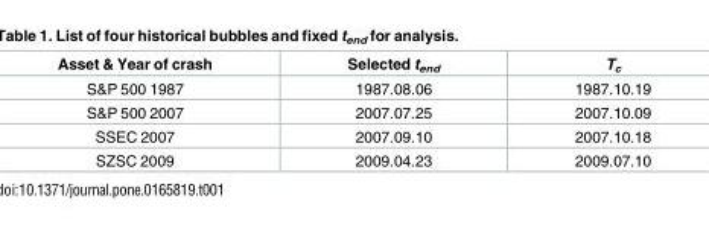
<table><thead><tr><td>Asset &amp; Year of crash</td><td>Selected t<sub>end</sub></td><td>T<sub>c</sub></td></tr></thead><tbody><tr><td>S&amp;P 500 1987</td><td>1987.08.06</td><td>1987.10.19</td></tr><tr><td>S&amp;P 500 2007</td><td>2007.07.25</td><td>2007.10.09</td></tr><tr><td>SSEC 2007</td><td>2007.09.10</td><td>2007.10.18</td></tr><tr><td>SZSC 2009</td><td>2009.04.23</td><td>2009.07.10</td></tr></tbody></table>